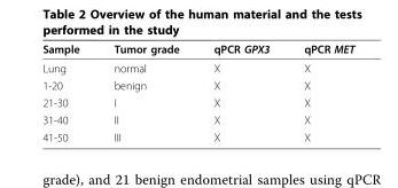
<table><thead><tr><td>Sample</td><td>Tumor grade</td><td>qPCR GPX3</td><td>qPCR MET</td></tr></thead><tbody><tr><td>Lung</td><td>normal</td><td>X</td><td>X</td></tr><tr><td>1-20</td><td>benign</td><td>X</td><td>X</td></tr><tr><td>21-30</td><td>I</td><td>X</td><td>X</td></tr><tr><td>31-40</td><td>II</td><td>X</td><td>X</td></tr><tr><td>41-50</td><td>III</td><td>X</td><td>X</td></tr></tbody></table>